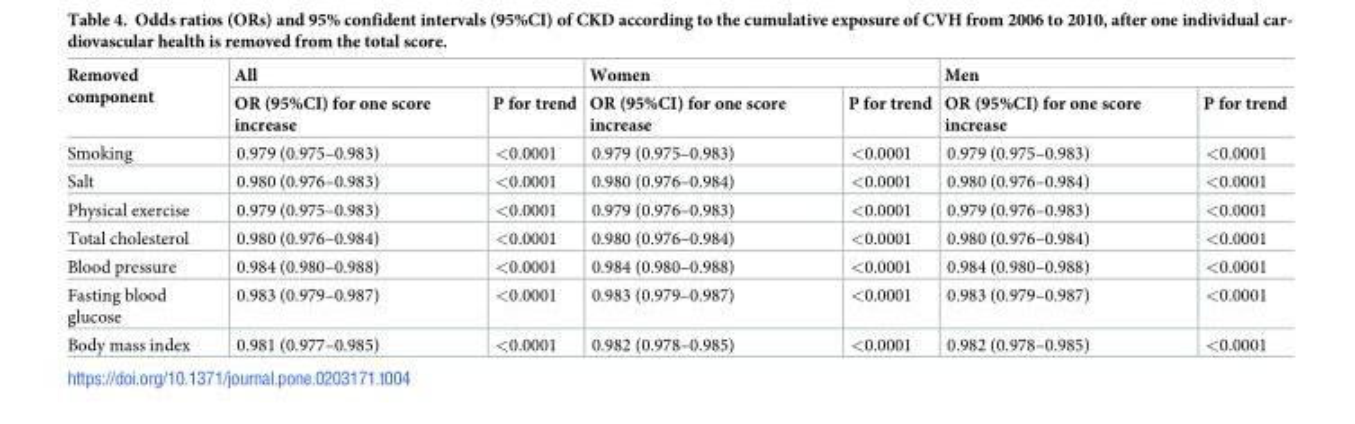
<table><thead><tr><td rowspan="2">Removed component</td><td colspan="2">All</td><td colspan="2">Women</td><td colspan="2">Men</td></tr><tr><td>OR (95%CI) for one score increase</td><td>P for trend</td><td>OR (95%CI) for one score increase</td><td>P for trend</td><td>OR (95%CI) for one score increase</td><td>P for trend</td></tr></thead><tbody><tr><td>Smoking</td><td>0.979 (0.975–0.983)</td><td>&lt;0.0001</td><td>0.979 (0.975–0.983)</td><td>&lt;0.0001</td><td>0.979 (0.975–0.983)</td><td>&lt;0.0001</td></tr><tr><td>Salt</td><td>0.980 (0.976–0.983)</td><td>&lt;0.0001</td><td>0.980 (0.976–0.984)</td><td>&lt;0.0001</td><td>0.980 (0.976–0.984)</td><td>&lt;0.0001</td></tr><tr><td>Physical exercise</td><td>0.979 (0.975–0.983)</td><td>&lt;0.0001</td><td>0.979 (0.976–0.983)</td><td>&lt;0.0001</td><td>0.979 (0.976–0.983)</td><td>&lt;0.0001</td></tr><tr><td>Total cholesterol</td><td>0.980 (0.976–0.984)</td><td>&lt;0.0001</td><td>0.980 (0.976–0.984)</td><td>&lt;0.0001</td><td>0.980 (0.976–0.984)</td><td>&lt;0.0001</td></tr><tr><td>Blood pressure</td><td>0.984 (0.980–0.988)</td><td>&lt;0.0001</td><td>0.984 (0.980–0.988)</td><td>&lt;0.0001</td><td>0.984 (0.980–0.988)</td><td>&lt;0.0001</td></tr><tr><td>Fasting blood glucose</td><td>0.983 (0.979–0.987)</td><td>&lt;0.0001</td><td>0.983 (0.979–0.987)</td><td>&lt;0.0001</td><td>0.983 (0.979–0.987)</td><td>&lt;0.0001</td></tr><tr><td>Body mass index</td><td>0.981 (0.977–0.985)</td><td>&lt;0.0001</td><td>0.982 (0.978–0.985)</td><td>&lt;0.0001</td><td>0.982 (0.978–0.985)</td><td>&lt;0.0001</td></tr></tbody></table>